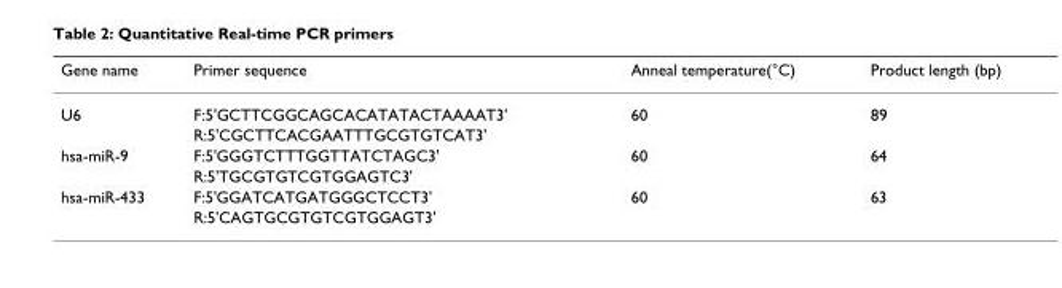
<table><thead><tr><td>Gene name</td><td>Primer sequence</td><td>Anneal temperature(°C)</td><td>Product length (bp)</td></tr></thead><tbody><tr><td rowspan="2">U6</td><td>F:5&#x27;GCTTCGGCAGCACATATACTAAAAT3&#x27;</td><td>60</td><td>89</td></tr><tr><td>R:5&#x27;CGCTTCACGAATTTGCGTGTCAT3&#x27;</td><td></td><td></td></tr><tr><td rowspan="2">hsa-miR-9</td><td>F:5&#x27;GGGTCTTTGGTTATCTAGC3&#x27;</td><td>60</td><td>64</td></tr><tr><td>R:5&#x27;TGCGTGTCGTGGAGTC3&#x27;</td><td></td><td></td></tr><tr><td rowspan="2">hsa-miR-433</td><td>F:5&#x27;GGATCATGATGGGCTCCT3&#x27;</td><td>60</td><td>63</td></tr><tr><td>R:5&#x27;CAGTGCGTGTCGTGGAGT3&#x27;</td><td></td><td></td></tr></tbody></table>